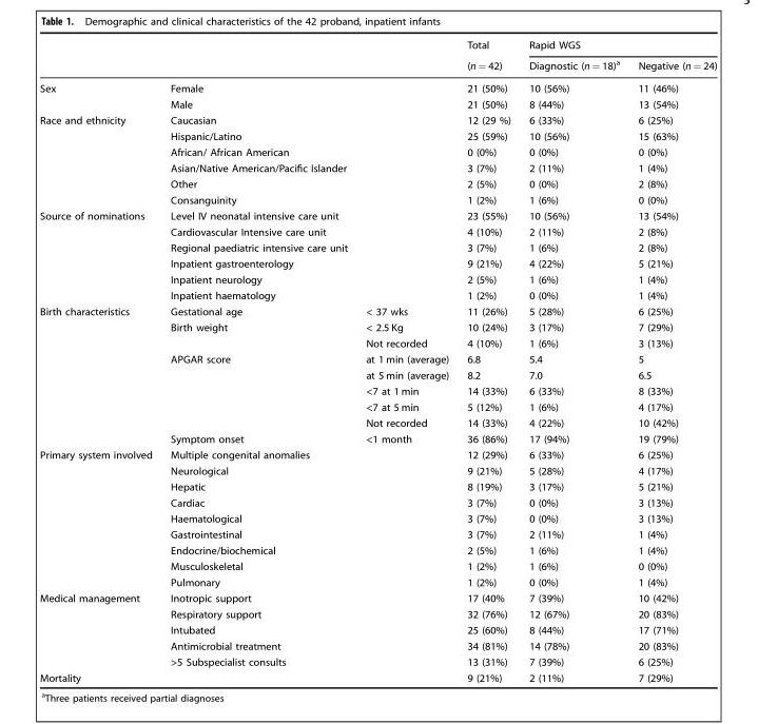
<table><thead><tr><td rowspan="2"></td><td rowspan="2"></td><td rowspan="2"></td><td rowspan="2">Total (n = 42)</td><td colspan="2">Rapid WGS</td></tr><tr><td>Diagnostic (n = 18)<sup>a</sup></td><td>Negative (n = 24)</td></tr></thead><tbody><tr><td rowspan="2">Sex</td><td>Female</td><td></td><td>21 (50%)</td><td>10 (56%)</td><td>11 (46%)</td></tr><tr><td>Male</td><td></td><td>21 (50%)</td><td>8 (44%)</td><td>13 (54%)</td></tr><tr><td rowspan="6">Race and ethnicity</td><td>Caucasian</td><td></td><td>12 (29 %)</td><td>6 (33%)</td><td>6 (25%)</td></tr><tr><td>Hispanic/Latino</td><td></td><td>25 (59%)</td><td>10 (56%)</td><td>15 (63%)</td></tr><tr><td>African/ African American</td><td></td><td>0 (0%)</td><td>0 (0%)</td><td>0 (0%)</td></tr><tr><td>Asian/Native American/Pacific Islander</td><td></td><td>3 (7%)</td><td>2 (11%)</td><td>1 (4%)</td></tr><tr><td>Other</td><td></td><td>2 (5%)</td><td>0 (0%)</td><td>2 (8%)</td></tr><tr><td>Consanguinity</td><td></td><td>1 (2%)</td><td>1 (6%)</td><td>0 (0%)</td></tr><tr><td rowspan="6">Source of nominations</td><td>Level IV neonatal intensive care unit</td><td></td><td>23 (55%)</td><td>10 (56%)</td><td>13 (54%)</td></tr><tr><td>Cardiovascular Intensive care unit</td><td></td><td>4 (10%)</td><td>2 (11%)</td><td>2 (8%)</td></tr><tr><td>Regional paediatric intensive care unit</td><td></td><td>3 (7%)</td><td>1 (6%)</td><td>2 (8%)</td></tr><tr><td>Inpatient gastroenterology</td><td></td><td>9 (21%)</td><td>4 (22%)</td><td>5 (21%)</td></tr><tr><td>Inpatient neurology</td><td></td><td>2 (5%)</td><td>1 (6%)</td><td>1 (4%)</td></tr><tr><td>Inpatient haematology</td><td></td><td>1 (2%)</td><td>0 (0%)</td><td>1 (4%)</td></tr><tr><td rowspan="9">Birth characteristics</td><td>Gestational age</td><td>&lt; 37 wks</td><td>11 (26%)</td><td>5 (28%)</td><td>6 (25%)</td></tr><tr><td rowspan="2">Birth weight</td><td>&lt; 2.5 Kg</td><td>10 (24%)</td><td>3 (17%)</td><td>7 (29%)</td></tr><tr><td>Not recorded</td><td>4 (10%)</td><td>1 (6%)</td><td>3 (13%)</td></tr><tr><td rowspan="5">APGAR score</td><td>at 1 min (average)</td><td>6.8</td><td>5.4</td><td>5</td></tr><tr><td>at 5 min (average)</td><td>8.2</td><td>7.0</td><td>6.5</td></tr><tr><td>&lt;7 at 1 min</td><td>14 (33%)</td><td>6 (33%)</td><td>8 (33%)</td></tr><tr><td>&lt;7 at 5 min</td><td>5 (12%)</td><td>1 (6%)</td><td>4 (17%)</td></tr><tr><td>Not recorded</td><td>14 (33%)</td><td>4 (22%)</td><td>10 (42%)</td></tr><tr><td>Symptom onset</td><td>&lt;1 month</td><td>36 (86%)</td><td>17 (94%)</td><td>19 (79%)</td></tr><tr><td rowspan="9">Primary system involved</td><td>Multiple congenital anomalies</td><td></td><td>12 (29%)</td><td>6 (33%)</td><td>6 (25%)</td></tr><tr><td>Neurological</td><td></td><td>9 (21%)</td><td>5 (28%)</td><td>4 (17%)</td></tr><tr><td>Hepatic</td><td></td><td>8 (19%)</td><td>3 (17%)</td><td>5 (21%)</td></tr><tr><td>Cardiac</td><td></td><td>3 (7%)</td><td>0 (0%)</td><td>3 (13%)</td></tr><tr><td>Haematological</td><td></td><td>3 (7%)</td><td>0 (0%)</td><td>3 (13%)</td></tr><tr><td>Gastrointestinal</td><td></td><td>3 (7%)</td><td>2 (11%)</td><td>1 (4%)</td></tr><tr><td>Endocrine/biochemical</td><td></td><td>2 (5%)</td><td>1 (6%)</td><td>1 (4%)</td></tr><tr><td>Musculoskeletal</td><td></td><td>1 (2%)</td><td>1 (6%)</td><td>0 (0%)</td></tr><tr><td>Pulmonary</td><td></td><td>1 (2%)</td><td>0 (0%)</td><td>1 (4%)</td></tr><tr><td rowspan="5">Medical management</td><td>Inotropic support</td><td></td><td>17 (40%</td><td>7 (39%)</td><td>10 (42%)</td></tr><tr><td>Respiratory support</td><td></td><td>32 (76%)</td><td>12 (67%)</td><td>20 (83%)</td></tr><tr><td>Intubated</td><td></td><td>25 (60%)</td><td>8 (44%)</td><td>17 (71%)</td></tr><tr><td>Antimicrobial treatment</td><td></td><td>34 (81%)</td><td>14 (78%)</td><td>20 (83%)</td></tr><tr><td>&gt;5 Subspecialist consults</td><td></td><td>13 (31%)</td><td>7 (39%)</td><td>6 (25%)</td></tr><tr><td>Mortality</td><td></td><td></td><td>9 (21%)</td><td>2 (11%)</td><td>7 (29%)</td></tr></tbody></table>